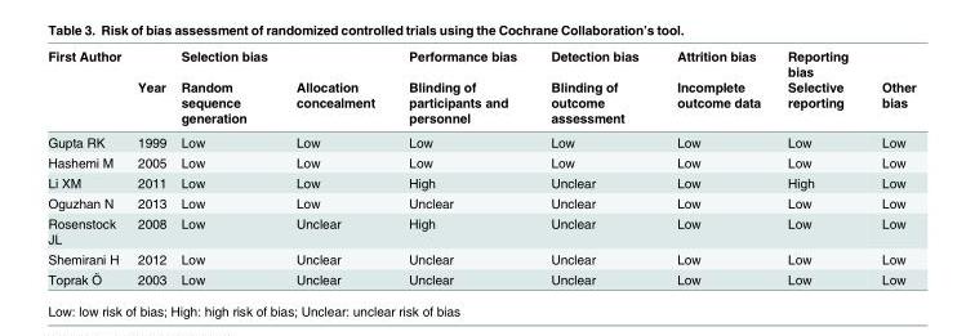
<table><thead><tr><td rowspan="2">First Author</td><td rowspan="2">Year</td><td rowspan="2">Selection bias Random sequence generation</td><td rowspan="2">Allocation concealment</td><td rowspan="2">Performance bias Blinding of participants and personnel</td><td rowspan="2">Detection bias Blinding of outcome assessment</td><td rowspan="2">Attrition bias Incomplete outcome data</td><td rowspan="2">Reporting bias Selective reporting</td><td rowspan="2">Other bias</td></tr><tr></tr></thead><tbody><tr><td>Gupta RK</td><td>1999</td><td>Low</td><td>Low</td><td>Low</td><td>Low</td><td>Low</td><td>Low</td><td>Low</td></tr><tr><td>Hashemi M</td><td>2005</td><td>Low</td><td>Low</td><td>Low</td><td>Low</td><td>Low</td><td>Low</td><td>Low</td></tr><tr><td>Li XM</td><td>2011</td><td>Low</td><td>Low</td><td>High</td><td>Unclear</td><td>Low</td><td>High</td><td>Low</td></tr><tr><td>Oguzhan N</td><td>2013</td><td>Low</td><td>Low</td><td>Unclear</td><td>Unclear</td><td>Low</td><td>Low</td><td>Low</td></tr><tr><td>Rosenstock JL</td><td>2008</td><td>Low</td><td>Unclear</td><td>High</td><td>Unclear</td><td>Low</td><td>Low</td><td>Low</td></tr><tr><td>Shemirani H</td><td>2012</td><td>Low</td><td>Unclear</td><td>Unclear</td><td>Unclear</td><td>Low</td><td>Low</td><td>Low</td></tr><tr><td>Toprak Ö</td><td>2003</td><td>Low</td><td>Unclear</td><td>Unclear</td><td>Unclear</td><td>Low</td><td>Low</td><td>Low</td></tr></tbody></table>